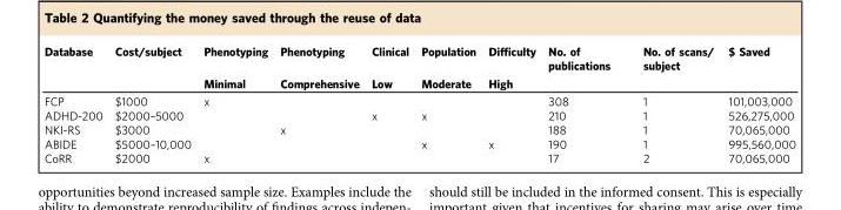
<table><thead><tr><td rowspan="2">Database</td><td rowspan="2">Cost/subject</td><td rowspan="2">Phenotyping Minimal</td><td rowspan="2">Phenotyping Comprehensive</td><td rowspan="2">Clinical Low</td><td rowspan="2">Population Moderate</td><td rowspan="2">Difficulty High</td><td rowspan="2">No. of publications</td><td rowspan="2">No. of scans/ subject</td><td rowspan="2">$ Saved</td></tr><tr></tr></thead><tbody><tr><td>FCP</td><td>$1000</td><td>x</td><td></td><td></td><td></td><td></td><td>308</td><td>1</td><td>101,003,000</td></tr><tr><td>ADHD-200</td><td>$2000–5000</td><td></td><td></td><td>x</td><td>x</td><td></td><td>210</td><td>1</td><td>526,275,000</td></tr><tr><td>NKI-RS</td><td>$3000</td><td></td><td>x</td><td></td><td></td><td></td><td>188</td><td>1</td><td>70,065,000</td></tr><tr><td>ABIDE</td><td>$5000–10,000</td><td></td><td></td><td></td><td>x</td><td>x</td><td>190</td><td>1</td><td>995,560,000</td></tr><tr><td>CoRR</td><td>$2000</td><td>x</td><td></td><td></td><td></td><td></td><td>17</td><td>2</td><td>70,065,000</td></tr></tbody></table>